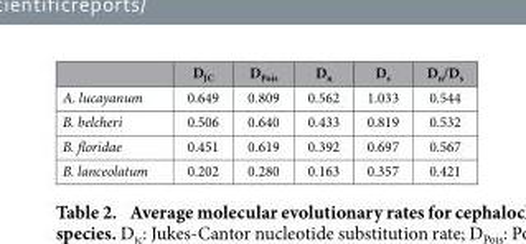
<table><thead><tr><td></td><td>D<sub>JC</sub></td><td>D<sub>Pois</sub></td><td>D<sub>n</sub></td><td>D<sub>s</sub></td><td>D<sub>n</sub>/D<sub>s</sub></td></tr></thead><tbody><tr><td>A. lucayanum</td><td>0.649</td><td>0.809</td><td>0.562</td><td>1.033</td><td>0.544</td></tr><tr><td>B. belcheri</td><td>0.506</td><td>0.640</td><td>0.433</td><td>0.819</td><td>0.532</td></tr><tr><td>B. floridae</td><td>0.451</td><td>0.619</td><td>0.392</td><td>0.697</td><td>0.567</td></tr><tr><td>B. lanceolatum</td><td>0.202</td><td>0.280</td><td>0.163</td><td>0.357</td><td>0.421</td></tr></tbody></table>